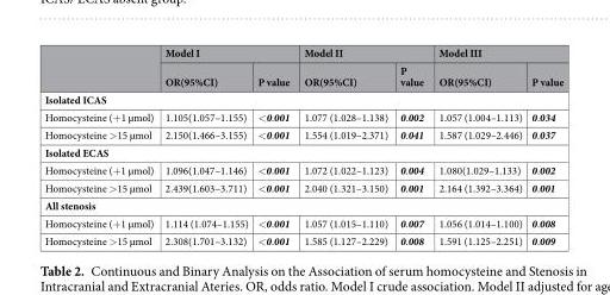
<table><thead><tr><td rowspan="2"></td><td colspan="2">Model I</td><td colspan="2">Model II</td><td colspan="2">Model III</td></tr><tr><td>OR(95%CI)</td><td>P value</td><td>OR(95%CI)</td><td>P value</td><td>OR(95%CI)</td><td>P value</td></tr></thead><tbody><tr><td colspan="7">Isolated ICAS</td></tr><tr><td>Homocysteine (+1 µmol)</td><td>1.105(1.057–1.155)</td><td>&lt;0.001</td><td>1.077 (1.028–1.138)</td><td>0.002</td><td>1.057 (1.004–1.113)</td><td>0.034</td></tr><tr><td>Homocysteine &gt;15 µmol</td><td>2.150(1.466–3.155)</td><td>&lt;0.001</td><td>1.554 (1.019–2.371)</td><td>0.041</td><td>1.587 (1.029–2.446)</td><td>0.037</td></tr><tr><td colspan="7">Isolated ECAS</td></tr><tr><td>Homocysteine (+1 µmol)</td><td>1.096(1.047–1.146)</td><td>&lt;0.001</td><td>1.072 (1.022–1.123)</td><td>0.004</td><td>1.080(1.029–1.133)</td><td>0.002</td></tr><tr><td>Homocysteine &gt;15 µmol</td><td>2.439(1.603–3.711)</td><td>&lt;0.001</td><td>2.040 (1.321–3.150)</td><td>0.001</td><td>2.164 (1.392–3.364)</td><td>0.001</td></tr><tr><td colspan="7">All stenosis</td></tr><tr><td>Homocysteine (+1 µmol)</td><td>1.114 (1.074–1.155)</td><td>&lt;0.001</td><td>1.057 (1.015–1.110)</td><td>0.007</td><td>1.056 (1.014–1.100)</td><td>0.008</td></tr><tr><td>Homocysteine &gt;15 µmol</td><td>2.308(1.701–3.132)</td><td>&lt;0.001</td><td>1.585 (1.127–2.229)</td><td>0.008</td><td>1.591 (1.125–2.251)</td><td>0.009</td></tr></tbody></table>